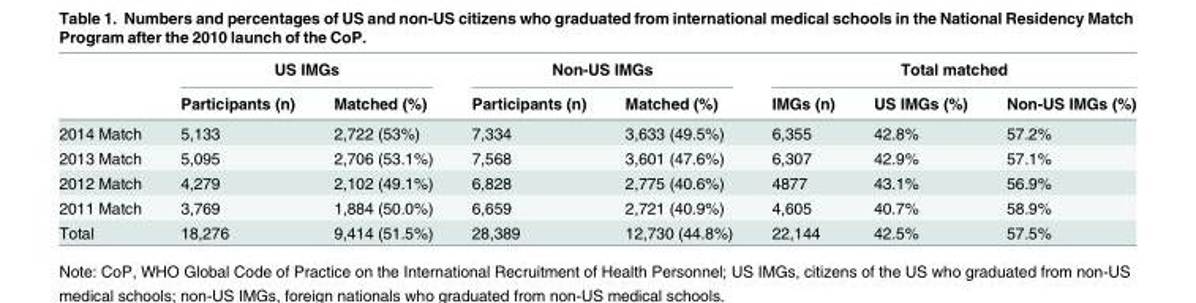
<table><thead><tr><td rowspan="2"></td><td colspan="2">US IMGs</td><td colspan="2">Non-US IMGs</td><td colspan="3">Total matched</td></tr><tr><td>Participants (n)</td><td>Matched (%)</td><td>Participants (n)</td><td>Matched (%)</td><td>IMGs (n)</td><td>US IMGs (%)</td><td>Non-US IMGs (%)</td></tr></thead><tbody><tr><td>2014 Match</td><td>5,133</td><td>2,722 (53%)</td><td>7,334</td><td>3,633 (49.5%)</td><td>6,355</td><td>42.8%</td><td>57.2%</td></tr><tr><td>2013 Match</td><td>5,095</td><td>2,706 (53.1%)</td><td>7,568</td><td>3,601 (47.6%)</td><td>6,307</td><td>42.9%</td><td>57.1%</td></tr><tr><td>2012 Match</td><td>4,279</td><td>2,102 (49.1%)</td><td>6,828</td><td>2,775 (40.6%)</td><td>4877</td><td>43.1%</td><td>56.9%</td></tr><tr><td>2011 Match</td><td>3,769</td><td>1,884 (50.0%)</td><td>6,659</td><td>2,721 (40.9%)</td><td>4,605</td><td>40.7%</td><td>58.9%</td></tr><tr><td>Total</td><td>18,276</td><td>9,414 (51.5%)</td><td>28,389</td><td>12,730 (44.8%)</td><td>22,144</td><td>42.5%</td><td>57.5%</td></tr></tbody></table>